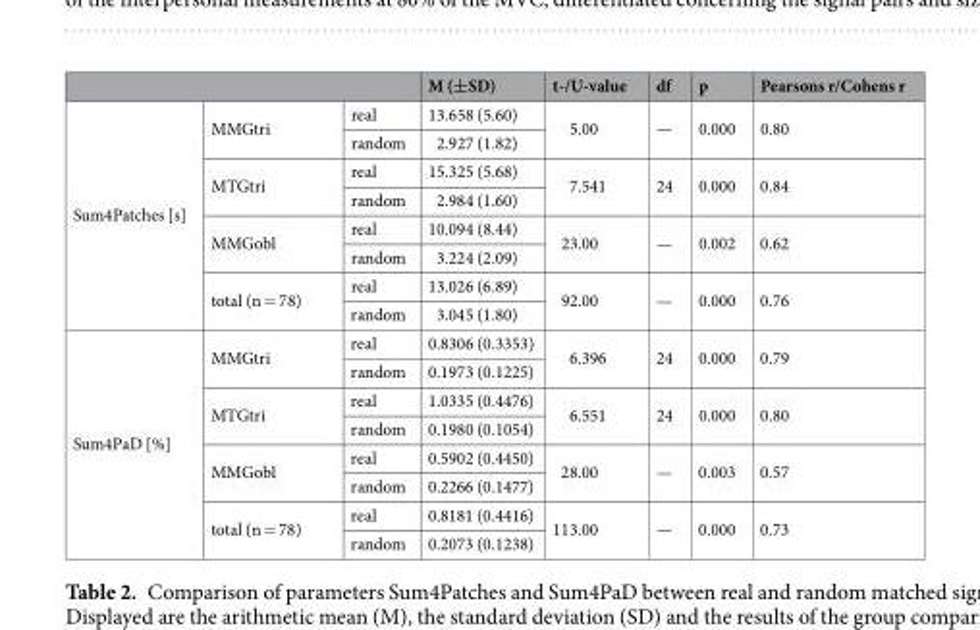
<table><thead><tr><td></td><td></td><td></td><td>M (±SD)</td><td>t-/U-value</td><td>df</td><td>p</td><td>Pearsons r/Cohens r</td></tr></thead><tbody><tr><td rowspan="8">Sum4Patches [s]</td><td rowspan="2">MMGtri</td><td>real</td><td>13.658 (5.60)</td><td rowspan="2">5.00</td><td rowspan="2">—</td><td rowspan="2">0.000</td><td rowspan="2">0.80</td></tr><tr><td>random</td><td>2.927 (1.82)</td></tr><tr><td rowspan="2">MTGtri</td><td>real</td><td>15.325 (5.68)</td><td rowspan="2">7.541</td><td rowspan="2">24</td><td rowspan="2">0.000</td><td rowspan="2">0.84</td></tr><tr><td>random</td><td>2.984 (1.60)</td></tr><tr><td rowspan="2">MMGobl</td><td>real</td><td>10.094 (8.44)</td><td rowspan="2">23.00</td><td rowspan="2">—</td><td rowspan="2">0.002</td><td rowspan="2">0.62</td></tr><tr><td>random</td><td>3.224 (2.09)</td></tr><tr><td rowspan="2">total (n = 78)</td><td>real</td><td>13.026 (6.89)</td><td rowspan="2">92.00</td><td rowspan="2">—</td><td rowspan="2">0.000</td><td rowspan="2">0.76</td></tr><tr><td>random</td><td>3.045 (1.80)</td></tr><tr><td rowspan="8">Sum4PaD [%]</td><td rowspan="2">MMGtri</td><td>real</td><td>0.8306 (0.3353)</td><td rowspan="2">6.396</td><td rowspan="2">24</td><td rowspan="2">0.000</td><td rowspan="2">0.79</td></tr><tr><td>random</td><td>0.1973 (0.1225)</td></tr><tr><td rowspan="2">MTGtri</td><td>real</td><td>1.0335 (0.4476)</td><td rowspan="2">6.551</td><td rowspan="2">24</td><td rowspan="2">0.000</td><td rowspan="2">0.80</td></tr><tr><td>random</td><td>0.1980 (0.1054)</td></tr><tr><td rowspan="2">MMGobl</td><td>real</td><td>0.5902 (0.4450)</td><td rowspan="2">28.00</td><td rowspan="2">—</td><td rowspan="2">0.003</td><td rowspan="2">0.57</td></tr><tr><td>random</td><td>0.2266 (0.1477)</td></tr><tr><td rowspan="2">total (n = 78)</td><td>real</td><td>0.8181 (0.4416)</td><td rowspan="2">113.00</td><td rowspan="2">—</td><td rowspan="2">0.000</td><td rowspan="2">0.73</td></tr><tr><td>random</td><td>0.2073 (0.1238)</td></tr></tbody></table>